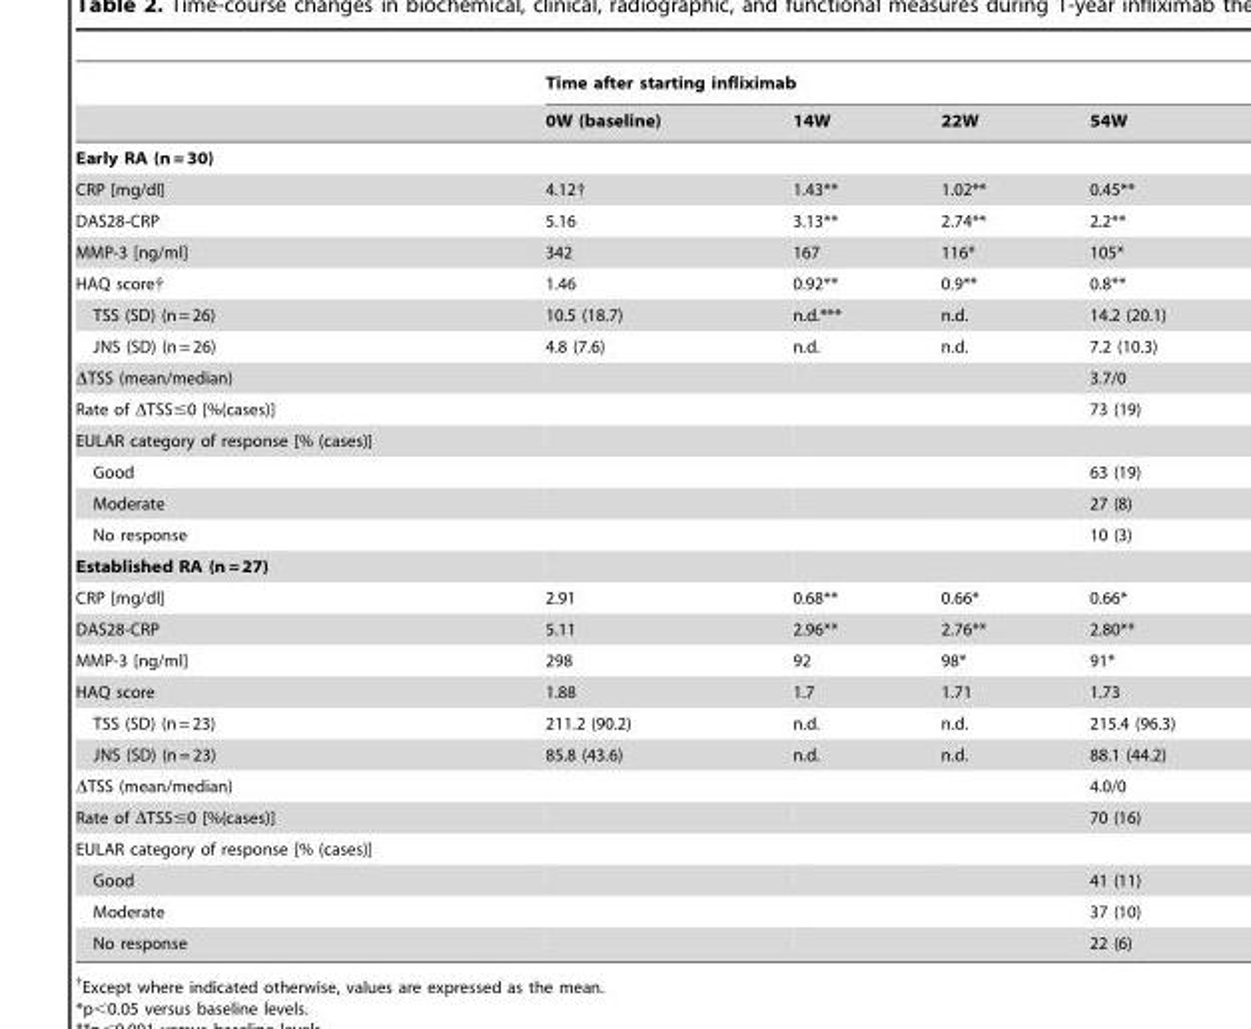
<table><thead><tr><td rowspan="2"></td><td colspan="4">Time after starting infliximab</td></tr><tr><td>0W (baseline)</td><td>14W</td><td>22W</td><td>54W</td></tr></thead><tbody><tr><td colspan="5">Early RA (n = 30)</td></tr><tr><td>CRP [mg/dl]</td><td>4.12†</td><td>1.43**</td><td>1.02**</td><td>0.45**</td></tr><tr><td>DAS28-CRP</td><td>5.16</td><td>3.13**</td><td>2.74**</td><td>2.2**</td></tr><tr><td>MMP-3 [ng/ml]</td><td>342</td><td>167</td><td>116*</td><td>105*</td></tr><tr><td>HAQ score†</td><td>1.46</td><td>0.92**</td><td>0.9**</td><td>0.8**</td></tr><tr><td>TSS (SD) (n = 26)</td><td>10.5 (18.7)</td><td>n.d.***</td><td>n.d.</td><td>14.2 (20.1)</td></tr><tr><td>JNS (SD) (n = 26)</td><td>4.8 (7.6)</td><td>n.d.</td><td>n.d.</td><td>7.2 (10.3)</td></tr><tr><td>ΔTSS (mean/median)</td><td></td><td></td><td></td><td>3.7/0</td></tr><tr><td>Rate of ΔTSS≤0 [%(cases)]</td><td></td><td></td><td></td><td>73 (19)</td></tr><tr><td colspan="5">EULAR category of response [% (cases)]</td></tr><tr><td>Good</td><td></td><td></td><td></td><td>63 (19)</td></tr><tr><td>Moderate</td><td></td><td></td><td></td><td>27 (8)</td></tr><tr><td>No response</td><td></td><td></td><td></td><td>10 (3)</td></tr><tr><td colspan="5">Established RA (n = 27)</td></tr><tr><td>CRP [mg/dl]</td><td>2.91</td><td>0.68**</td><td>0.66*</td><td>0.66*</td></tr><tr><td>DAS28-CRP</td><td>5.11</td><td>2.96**</td><td>2.76**</td><td>2.80**</td></tr><tr><td>MMP-3 [ng/ml]</td><td>298</td><td>92</td><td>98*</td><td>91*</td></tr><tr><td>HAQ score</td><td>1.88</td><td>1.7</td><td>1.71</td><td>1.73</td></tr><tr><td>TSS (SD) (n = 23)</td><td>211.2 (90.2)</td><td>n.d.</td><td>n.d.</td><td>215.4 (96.3)</td></tr><tr><td>JNS (SD) (n = 23)</td><td>85.8 (43.6)</td><td>n.d.</td><td>n.d.</td><td>88.1 (44.2)</td></tr><tr><td>ΔTSS (mean/median)</td><td></td><td></td><td></td><td>4.0/0</td></tr><tr><td>Rate of ΔTSS≤0 [%(cases)]</td><td></td><td></td><td></td><td>70 (16)</td></tr><tr><td colspan="5">EULAR category of response [% (cases)]</td></tr><tr><td>Good</td><td></td><td></td><td></td><td>41 (11)</td></tr><tr><td>Moderate</td><td></td><td></td><td></td><td>37 (10)</td></tr><tr><td>No response</td><td></td><td></td><td></td><td>22 (6)</td></tr></tbody></table>